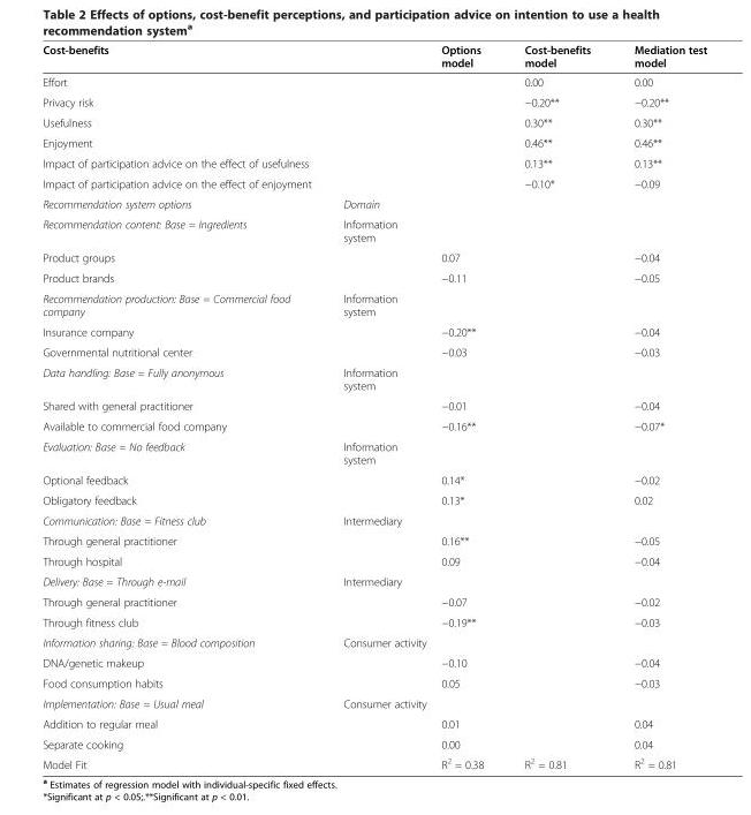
<table><thead><tr><td>Cost-benefits</td><td></td><td>Options model</td><td>Cost-benefits model</td><td>Mediation test model</td></tr></thead><tbody><tr><td>Effort</td><td></td><td></td><td>0.00</td><td>0.00</td></tr><tr><td>Privacy risk</td><td></td><td></td><td>−0.20**</td><td>−0.20**</td></tr><tr><td>Usefulness</td><td></td><td></td><td>0.30**</td><td>0.30**</td></tr><tr><td>Enjoyment</td><td></td><td></td><td>0.46**</td><td>0.46**</td></tr><tr><td>Impact of participation advice on the effect of usefulness</td><td></td><td></td><td>0.13**</td><td>0.13**</td></tr><tr><td>Impact of participation advice on the effect of enjoyment</td><td></td><td></td><td>−0.10*</td><td>−0.09</td></tr><tr><td>Recommendation system options</td><td>Domain</td><td></td><td></td><td></td></tr><tr><td>Recommendation content: Base = Ingredients</td><td>Information system</td><td></td><td></td><td></td></tr><tr><td>Product groups</td><td></td><td>0.07</td><td></td><td>−0.04</td></tr><tr><td>Product brands</td><td></td><td>−0.11</td><td></td><td>−0.05</td></tr><tr><td>Recommendation production: Base = Commercial food company</td><td>Information system</td><td></td><td></td><td></td></tr><tr><td>Insurance company</td><td></td><td>−0.20**</td><td></td><td>−0.04</td></tr><tr><td>Governmental nutritional center</td><td></td><td>−0.03</td><td></td><td>−0.03</td></tr><tr><td>Data handling: Base = Fully anonymous</td><td>Information system</td><td></td><td></td><td></td></tr><tr><td>Shared with general practitioner</td><td></td><td>−0.01</td><td></td><td>−0.04</td></tr><tr><td>Available to commercial food company</td><td></td><td>−0.16**</td><td></td><td>−0.07*</td></tr><tr><td>Evaluation: Base = No feedback</td><td>Information system</td><td></td><td></td><td></td></tr><tr><td>Optional feedback</td><td></td><td>0.14*</td><td></td><td>−0.02</td></tr><tr><td>Obligatory feedback</td><td></td><td>0.13*</td><td></td><td>0.02</td></tr><tr><td>Communication: Base = Fitness club</td><td>Intermediary</td><td></td><td></td><td></td></tr><tr><td>Through general practitioner</td><td></td><td>0.16**</td><td></td><td>−0.05</td></tr><tr><td>Through hospital</td><td></td><td>0.09</td><td></td><td>−0.04</td></tr><tr><td>Delivery: Base = Through e-mail</td><td>Intermediary</td><td></td><td></td><td></td></tr><tr><td>Through general practitioner</td><td></td><td>−0.07</td><td></td><td>−0.02</td></tr><tr><td>Through fitness club</td><td></td><td>−0.19**</td><td></td><td>−0.03</td></tr><tr><td>Information sharing: Base = Blood composition</td><td>Consumer activity</td><td></td><td></td><td></td></tr><tr><td>DNA/genetic makeup</td><td></td><td>−0.10</td><td></td><td>−0.04</td></tr><tr><td>Food consumption habits</td><td></td><td>0.05</td><td></td><td>−0.03</td></tr><tr><td>Implementation: Base = Usual meal</td><td>Consumer activity</td><td></td><td></td><td></td></tr><tr><td>Addition to regular meal</td><td></td><td>0.01</td><td></td><td>0.04</td></tr><tr><td>Separate cooking</td><td></td><td>0.00</td><td></td><td>0.04</td></tr><tr><td>Model Fit</td><td></td><td>R<sup>2</sup> = 0.38</td><td>R<sup>2</sup> = 0.81</td><td>R<sup>2</sup> = 0.81</td></tr></tbody></table>